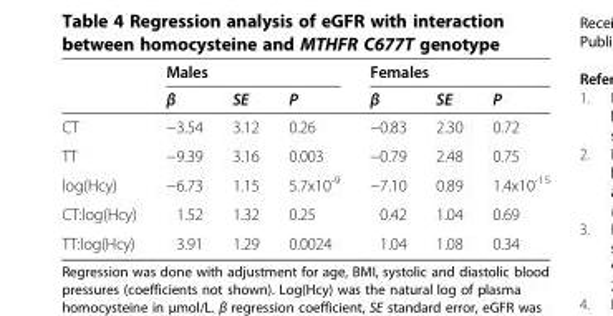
<table><thead><tr><td rowspan="2"></td><td colspan="3">Males</td><td colspan="3">Females</td></tr><tr><td>β</td><td>SE</td><td>P</td><td>β</td><td>SE</td><td>P</td></tr></thead><tbody><tr><td>CT</td><td>−3.54</td><td>3.12</td><td>0.26</td><td>−0.83</td><td>2.30</td><td>0.72</td></tr><tr><td>TT</td><td>−9.39</td><td>3.16</td><td>0.003</td><td>−0.79</td><td>2.48</td><td>0.75</td></tr><tr><td>log(Hcy)</td><td>−6.73</td><td>1.15</td><td>5.7x10<sup>-9</sup></td><td>−7.10</td><td>0.89</td><td>1.4x10<sup>-15</sup></td></tr><tr><td>CT:log(Hcy)</td><td>1.52</td><td>1.32</td><td>0.25</td><td>0.42</td><td>1.04</td><td>0.69</td></tr><tr><td>TT:log(Hcy)</td><td>3.91</td><td>1.29</td><td>0.0024</td><td>1.04</td><td>1.08</td><td>0.34</td></tr></tbody></table>